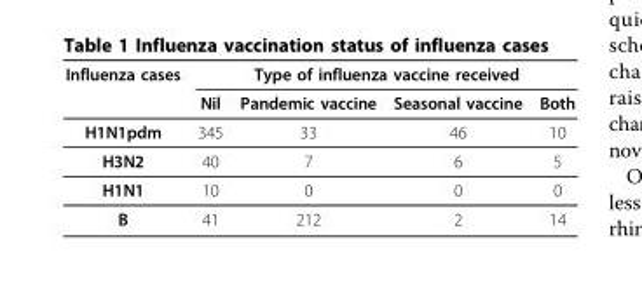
<table><thead><tr><td rowspan="2">Influenza cases</td><td colspan="4">Type of influenza vaccine received</td></tr><tr><td>Nil</td><td>Pandemic vaccine</td><td>Seasonal vaccine</td><td>Both</td></tr></thead><tbody><tr><td>H1N1pdm</td><td>345</td><td>33</td><td>46</td><td>10</td></tr><tr><td>H3N2</td><td>40</td><td>7</td><td>6</td><td>5</td></tr><tr><td>H1N1</td><td>10</td><td>0</td><td>0</td><td>0</td></tr><tr><td>B</td><td>41</td><td>212</td><td>2</td><td>14</td></tr></tbody></table>